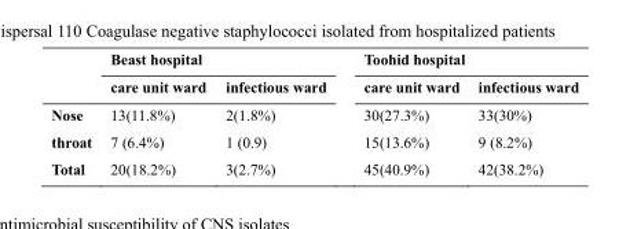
<table><thead><tr><td rowspan="2"></td><td colspan="2">Beast hospital</td><td colspan="2">Toohid hospital</td></tr><tr><td>care unit ward</td><td>infectious ward</td><td>care unit ward</td><td>infectious ward</td></tr></thead><tbody><tr><td>Nose</td><td>13(11.8%)</td><td>2(1.8%)</td><td>30(27.3%)</td><td>33(30%)</td></tr><tr><td>throat</td><td>7 (6.4%)</td><td>1 (0.9)</td><td>15(13.6%)</td><td>9 (8.2%)</td></tr><tr><td>Total</td><td>20(18.2%)</td><td>3(2.7%)</td><td>45(40.9%)</td><td>42(38.2%)</td></tr></tbody></table>